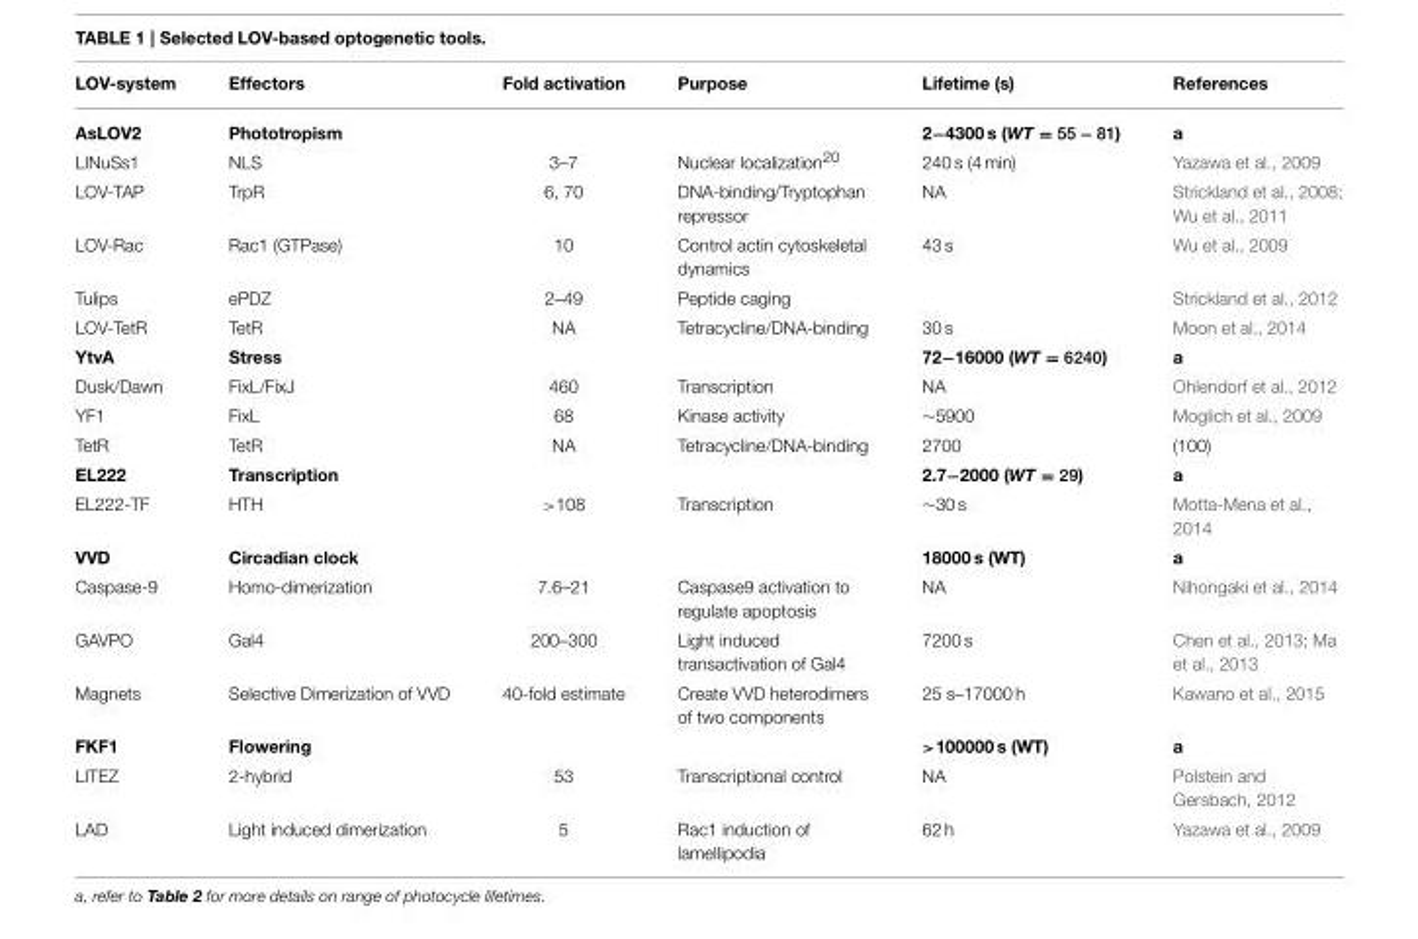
<table><thead><tr><td>LOV-system</td><td>Effectors</td><td>Fold activation</td><td>Purpose</td><td>Lifetime (s)</td><td>References</td></tr></thead><tbody><tr><td>AsLOV2</td><td colspan="3">Phototropism</td><td>2−4300 s (WT = 55 − 81)</td><td>a</td></tr><tr><td>LINuSs1</td><td>NLS</td><td>3–7</td><td>Nuclear localization<sup>20</sup></td><td>240 s (4 min)</td><td>Yazawa et al., 2009</td></tr><tr><td>LOV-TAP</td><td>TrpR</td><td>6, 70</td><td>DNA-binding/Tryptophan repressor</td><td>NA</td><td>Strickland et al., 2008; Wu et al., 2011</td></tr><tr><td>LOV-Rac</td><td>Rac1 (GTPase)</td><td>10</td><td>Control actin cytoskeletal dynamics</td><td>43 s</td><td>Wu et al., 2009</td></tr><tr><td>Tulips</td><td>ePDZ</td><td>2–49</td><td>Peptide caging</td><td></td><td>Strickland et al., 2012</td></tr><tr><td>LOV-TetR</td><td>TetR</td><td>NA</td><td>Tetracycline/DNA-binding</td><td>30 s</td><td>Moon et al., 2014</td></tr><tr><td>YtvA</td><td colspan="3">Stress</td><td>72−16000 (WT = 6240)</td><td>a</td></tr><tr><td>Dusk/Dawn</td><td>FixL/FixJ</td><td>460</td><td>Transcription</td><td>NA</td><td>Ohlendorf et al., 2012</td></tr><tr><td>YF1</td><td>FixL</td><td>68</td><td>Kinase activity</td><td>∼5900</td><td>Moglich et al., 2009</td></tr><tr><td>TetR</td><td>TetR</td><td>NA</td><td>Tetracycline/DNA-binding</td><td>2700</td><td>(100)</td></tr><tr><td>EL222</td><td colspan="3">Transcription</td><td>2.7−2000 (WT = 29)</td><td>a</td></tr><tr><td>EL222-TF</td><td>HTH</td><td>&gt;108</td><td>Transcription</td><td>∼30 s</td><td>Motta-Mena et al., 2014</td></tr><tr><td>VVD</td><td colspan="3">Circadian clock</td><td>18000 s (WT)</td><td>a</td></tr><tr><td>Caspase-9</td><td>Homo-dimerization</td><td>7.6–21</td><td>Caspase9 activation to regulate apoptosis</td><td>NA</td><td>Nihongaki et al., 2014</td></tr><tr><td>GAVPO</td><td>Gal4</td><td>200–300</td><td>Light induced transactivation of Gal4</td><td>7200 s</td><td>Chen et al., 2013; Ma et al., 2013</td></tr><tr><td>Magnets</td><td>Selective Dimerization of VVD</td><td>40-fold estimate</td><td>Create VVD heterodimers of two components</td><td>25 s–17000 h</td><td>Kawano et al., 2015</td></tr><tr><td>FKF1</td><td colspan="3">Flowering</td><td>&gt;100000 s (WT)</td><td>a</td></tr><tr><td>LITEZ</td><td>2-hybrid</td><td>53</td><td>Transcriptional control</td><td>NA</td><td>Polstein and Gersbach, 2012</td></tr><tr><td>LAD</td><td>Light induced dimerization</td><td>5</td><td>Rac1 induction of lamellipodia</td><td>62 h</td><td>Yazawa et al., 2009</td></tr></tbody></table>